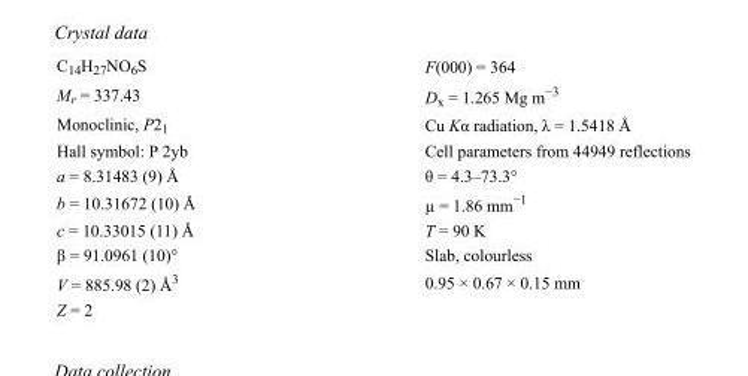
<table><tbody><tr><td>C<sub>14</sub>H<sub>27</sub>NO<sub>6</sub>S</td><td>F(000) = 364</td></tr><tr><td>M<sub>r</sub> = 337.43</td><td>D<sub>x</sub> = 1.265 Mg m<sup>−3</sup></td></tr><tr><td>Monoclinic, P2<sub>1</sub></td><td>Cu Kα radiation, λ = 1.5418 Å</td></tr><tr><td>Hall symbol: P 2yb</td><td>Cell parameters from 44949 reflections</td></tr><tr><td>a = 8.31483 (9) Å</td><td>θ = 4.3–73.3°</td></tr><tr><td>b = 10.31672 (10) Å</td><td>µ = 1.86 mm<sup>−1</sup></td></tr><tr><td>c = 10.33015 (11) Å</td><td>T = 90 K</td></tr><tr><td>β = 91.0961 (10)°</td><td>Slab, colourless</td></tr><tr><td>V = 885.98 (2) Å<sup>3</sup></td><td>0.95 × 0.67 × 0.15 mm</td></tr><tr><td>Z = 2</td><td></td></tr></tbody></table>